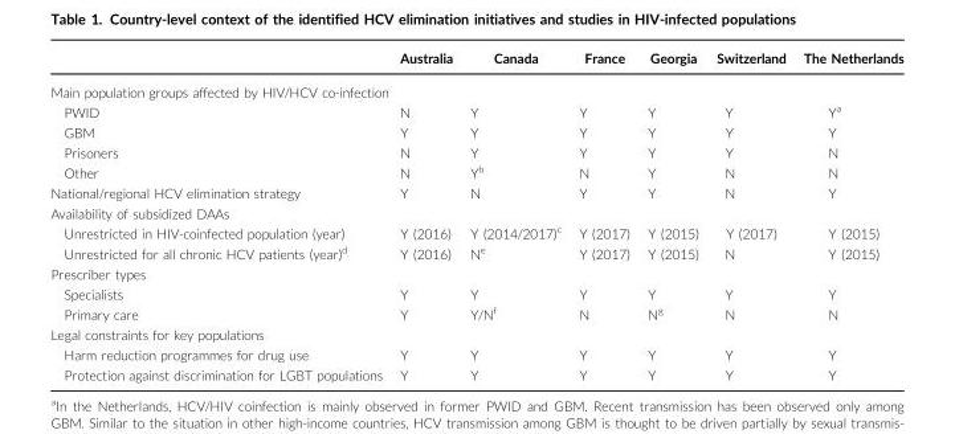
<table><thead><tr><td></td><td>Australia</td><td>Canada</td><td>France</td><td>Georgia</td><td>Switzerland</td><td>The Netherlands</td></tr></thead><tbody><tr><td colspan="7">Main population groups affected by HIV/HCV co-infection</td></tr><tr><td>PWID</td><td>N</td><td>Y</td><td>Y</td><td>Y</td><td>Y</td><td>Y<sup>a</sup></td></tr><tr><td>GBM</td><td>Y</td><td>Y</td><td>Y</td><td>Y</td><td>Y</td><td>Y</td></tr><tr><td>Prisoners</td><td>N</td><td>Y</td><td>Y</td><td>Y</td><td>Y</td><td>N</td></tr><tr><td>Other</td><td>N</td><td>Y<sup>b</sup></td><td>N</td><td>Y</td><td>N</td><td>N</td></tr><tr><td>National/regional HCV elimination strategy</td><td>Y</td><td>N</td><td>Y</td><td>Y</td><td>N</td><td>Y</td></tr><tr><td colspan="7">Availability of subsidized DAAs</td></tr><tr><td>Unrestricted in HIV-coinfected population (year)</td><td>Y (2016)</td><td>Y (2014/2017)<sup>c</sup></td><td>Y (2017)</td><td>Y (2015)</td><td>Y (2017)</td><td>Y (2015)</td></tr><tr><td>Unrestricted for all chronic HCV patients (year)<sup>d</sup></td><td>Y (2016)</td><td>N<sup>e</sup></td><td>Y (2017)</td><td>Y (2015)</td><td>N</td><td>Y (2015)</td></tr><tr><td colspan="7">Prescriber types</td></tr><tr><td>Specialists</td><td>Y</td><td>Y</td><td>Y</td><td>Y</td><td>Y</td><td>Y</td></tr><tr><td>Primary care</td><td>Y</td><td>Y/N<sup>f</sup></td><td>N</td><td>N<sup>g</sup></td><td>N</td><td>N</td></tr><tr><td colspan="7">Legal constraints for key populations</td></tr><tr><td>Harm reduction programmes for drug use</td><td>Y</td><td>Y</td><td>Y</td><td>Y</td><td>Y</td><td>Y</td></tr><tr><td>Protection against discrimination for LGBT populations</td><td>Y</td><td>Y</td><td>Y</td><td>Y</td><td>Y</td><td>Y</td></tr></tbody></table>